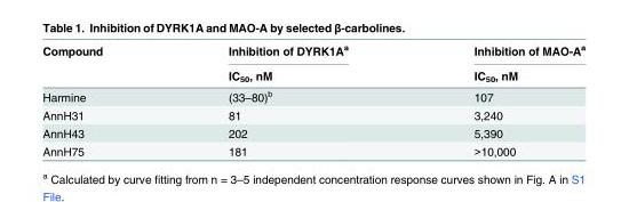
<table><thead><tr><td rowspan="2">Compound</td><td rowspan="2">Inhibition of DYRK1A<sup>a</sup> IC<sub>50</sub>, nM</td><td rowspan="2">Inhibition of MAO-A<sup>a</sup> IC<sub>50</sub>, nM</td></tr><tr></tr></thead><tbody><tr><td>Harmine</td><td>(33–80)<sup>b</sup></td><td>107</td></tr><tr><td>AnnH31</td><td>81</td><td>3,240</td></tr><tr><td>AnnH43</td><td>202</td><td>5,390</td></tr><tr><td>AnnH75</td><td>181</td><td>&gt;10,000</td></tr></tbody></table>